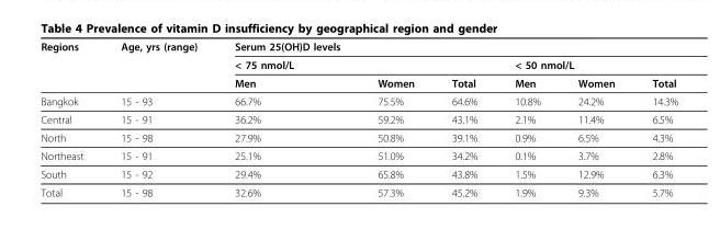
<table><thead><tr><td rowspan="3">Regions</td><td rowspan="3">Age, yrs (range)</td><td>Serum 25(OH)D levels</td><td></td><td rowspan="3">Total</td><td></td><td></td><td rowspan="3">Total</td></tr><tr><td colspan="2">&lt; 75 nmol/L</td><td colspan="2">&lt; 50 nmol/L</td></tr><tr><td>Men</td><td>Women</td><td>Men</td><td>Women</td></tr></thead><tbody><tr><td>Bangkok</td><td>15 - 93</td><td>66.7%</td><td>75.5%</td><td>64.6%</td><td>10.8%</td><td>24.2%</td><td>14.3%</td></tr><tr><td>Central</td><td>15 - 91</td><td>36.2%</td><td>59.2%</td><td>43.1%</td><td>2.1%</td><td>11.4%</td><td>6.5%</td></tr><tr><td>North</td><td>15 - 98</td><td>27.9%</td><td>50.8%</td><td>39.1%</td><td>0.9%</td><td>6.5%</td><td>4.3%</td></tr><tr><td>Northeast</td><td>15 - 91</td><td>25.1%</td><td>51.0%</td><td>34.2%</td><td>0.1%</td><td>3.7%</td><td>2.8%</td></tr><tr><td>South</td><td>15 - 92</td><td>29.4%</td><td>65.8%</td><td>43.8%</td><td>1.5%</td><td>12.9%</td><td>6.3%</td></tr><tr><td>Total</td><td>15 - 98</td><td>32.6%</td><td>57.3%</td><td>45.2%</td><td>1.9%</td><td>9.3%</td><td>5.7%</td></tr></tbody></table>